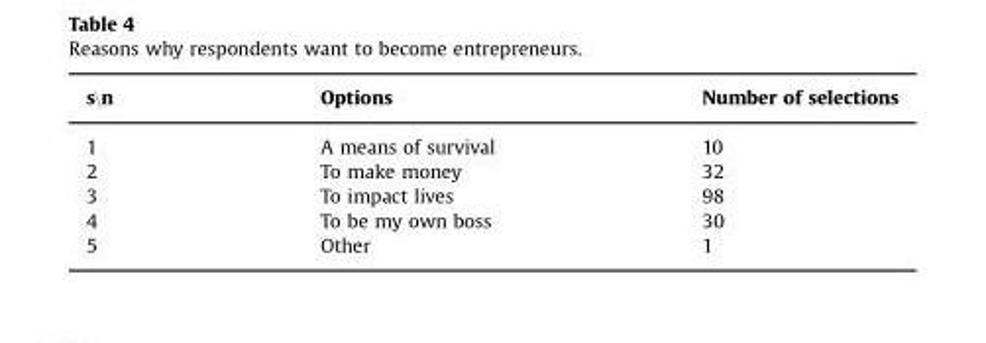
<table><thead><tr><td>s\n</td><td>Options</td><td>Number of selections</td></tr></thead><tbody><tr><td>1</td><td>A means of survival</td><td>10</td></tr><tr><td>2</td><td>To make money</td><td>32</td></tr><tr><td>3</td><td>To impact lives</td><td>98</td></tr><tr><td>4</td><td>To be my own boss</td><td>30</td></tr><tr><td>5</td><td>Other</td><td>1</td></tr></tbody></table>